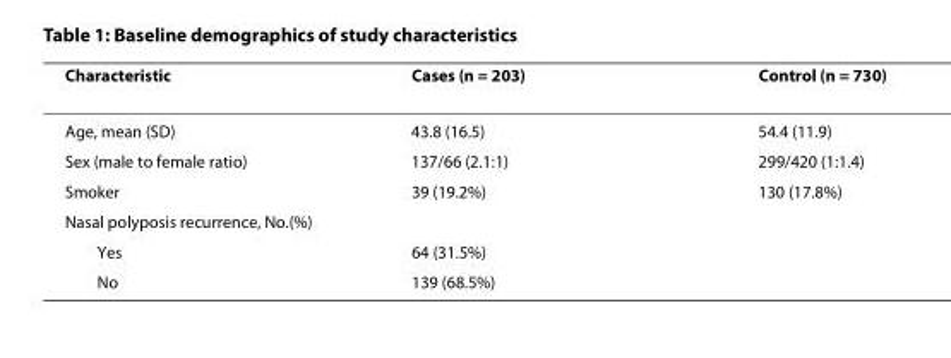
<table><thead><tr><td>Characteristic</td><td>Cases (n = 203)</td><td>Control (n = 730)</td></tr></thead><tbody><tr><td>Age, mean (SD)</td><td>43.8 (16.5)</td><td>54.4 (11.9)</td></tr><tr><td>Sex (male to female ratio)</td><td>137/66 (2.1:1)</td><td>299/420 (1:1.4)</td></tr><tr><td>Smoker</td><td>39 (19.2%)</td><td>130 (17.8%)</td></tr><tr><td colspan="3">Nasal polyposis recurrence, No.(%)</td></tr><tr><td>Yes</td><td>64 (31.5%)</td><td></td></tr><tr><td>No</td><td>139 (68.5%)</td><td></td></tr></tbody></table>